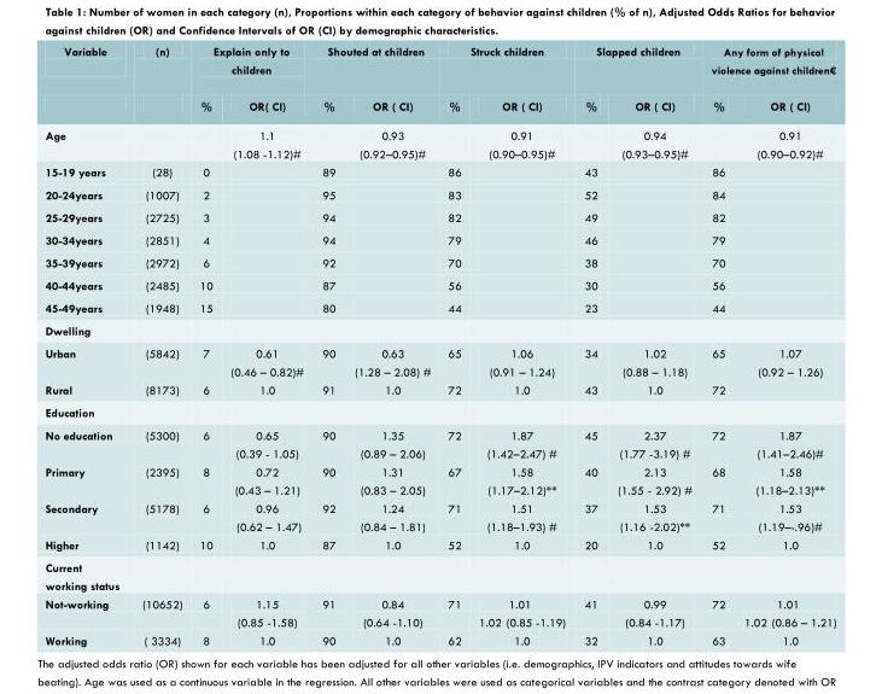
<table><thead><tr><td rowspan="2">Variable</td><td rowspan="2">(n)</td><td colspan="2">Explain only to children</td><td colspan="2">Shouted at children</td><td colspan="2">Struck children</td><td colspan="2">Slapped children</td><td colspan="2">Any form of physical violence against children€</td></tr><tr><td>%</td><td>OR( CI)</td><td>%</td><td>OR ( CI)</td><td>%</td><td>OR ( CI)</td><td>%</td><td>OR ( CI)</td><td>%</td><td>OR ( CI)</td></tr></thead><tbody><tr><td>Age</td><td></td><td></td><td>1.1 (1.08 -1.12)#</td><td></td><td>0.93 (0.92–0.95)#</td><td></td><td>0.91 (0.90–0.95)#</td><td></td><td>0.94 (0.93–0.95)#</td><td></td><td>0.91 (0.90–0.92)#</td></tr><tr><td>15-19 years</td><td>(28)</td><td>0</td><td></td><td>89</td><td></td><td>86</td><td></td><td>43</td><td></td><td>86</td><td></td></tr><tr><td>20-24years</td><td>(1007)</td><td>2</td><td></td><td>95</td><td></td><td>83</td><td></td><td>52</td><td></td><td>84</td><td></td></tr><tr><td>25-29years</td><td>(2725)</td><td>3</td><td></td><td>94</td><td></td><td>82</td><td></td><td>49</td><td></td><td>82</td><td></td></tr><tr><td>30-34years</td><td>(2851)</td><td>4</td><td></td><td>94</td><td></td><td>79</td><td></td><td>46</td><td></td><td>79</td><td></td></tr><tr><td>35-39years</td><td>(2972)</td><td>6</td><td></td><td>92</td><td></td><td>70</td><td></td><td>38</td><td></td><td>70</td><td></td></tr><tr><td>40-44years</td><td>(2485)</td><td>10</td><td></td><td>87</td><td></td><td>56</td><td></td><td>30</td><td></td><td>56</td><td></td></tr><tr><td>45-49years</td><td>(1948)</td><td>15</td><td></td><td>80</td><td></td><td>44</td><td></td><td>23</td><td></td><td>44</td><td></td></tr><tr><td colspan="12">Dwelling</td></tr><tr><td>Urban</td><td>(5842)</td><td>7</td><td>0.61 (0.46 – 0.82)#</td><td>90</td><td>0.63 (1.28 – 2.08) #</td><td>65</td><td>1.06 (0.91 – 1.24)</td><td>34</td><td>1.02 (0.88 – 1.18)</td><td>65</td><td>1.07 (0.92 – 1.26)</td></tr><tr><td>Rural</td><td>(8173)</td><td>6</td><td>1.0</td><td>91</td><td>1.0</td><td>72</td><td>1.0</td><td>43</td><td>1.0</td><td>72</td><td></td></tr><tr><td colspan="12">Education</td></tr><tr><td>No education</td><td>(5300)</td><td>6</td><td>0.65 (0.39 - 1.05)</td><td>90</td><td>1.35 (0.89 – 2.06)</td><td>72</td><td>1.87 (1.42–2.47) #</td><td>45</td><td>2.37 (1.77 -3.19) #</td><td>72</td><td>1.87 (1.41–2.46)#</td></tr><tr><td>Primary</td><td>(2395)</td><td>8</td><td>0.72 (0.43 – 1.21)</td><td>90</td><td>1.31 (0.83 – 2.05)</td><td>67</td><td>1.58 (1.17–2.12)**</td><td>40</td><td>2.13 (1.55 - 2.92) #</td><td>68</td><td>1.58 (1.18–2.13)**</td></tr><tr><td>Secondary</td><td>(5178)</td><td>6</td><td>0.96 (0.62 – 1.47)</td><td>92</td><td>1.24 (0.84 – 1.81)</td><td>71</td><td>1.51 (1.18–1.93) #</td><td>37</td><td>1.53 (1.16 -2.02)**</td><td>71</td><td>1.53 (1.19–-.96)#</td></tr><tr><td>Higher</td><td>(1142)</td><td>10</td><td>1.0</td><td>87</td><td>1.0</td><td>52</td><td>1.0</td><td>20</td><td>1.0</td><td>52</td><td>1.0</td></tr><tr><td colspan="12">Current working status</td></tr><tr><td>Not-working</td><td>(10652)</td><td>6</td><td>1.15 (0.85 -1.58)</td><td>91</td><td>0.84 (0.64 -1.10)</td><td>71</td><td>1.01 1.02 (0.85 -1.19)</td><td>41</td><td>0.99 (0.84 -1.17)</td><td>72</td><td>1.01 1.02 (0.86 – 1.21)</td></tr><tr><td>Working</td><td>( 3334)</td><td>8</td><td>1.0</td><td>90</td><td>1.0</td><td>62</td><td>1.0</td><td>32</td><td>1.0</td><td>63</td><td>1.0</td></tr></tbody></table>